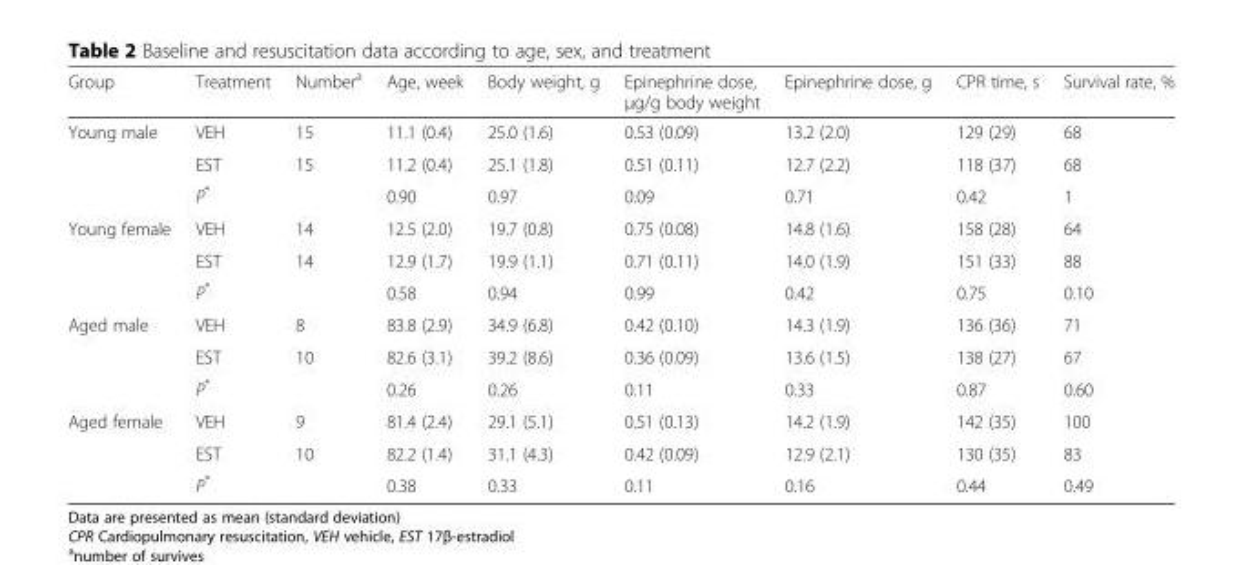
<table><thead><tr><td>Group</td><td>Treatment</td><td>Number<sup>a</sup></td><td>Age, week</td><td>Body weight, g</td><td>Epinephrine dose, μg/g body weight</td><td>Epinephrine dose, g</td><td>CPR time, s</td><td>Survival rate, %</td></tr></thead><tbody><tr><td rowspan="3">Young male</td><td>VEH</td><td>15</td><td>11.1 (0.4)</td><td>25.0 (1.6)</td><td>0.53 (0.09)</td><td>13.2 (2.0)</td><td>129 (29)</td><td>68</td></tr><tr><td>EST</td><td>15</td><td>11.2 (0.4)</td><td>25.1 (1.8)</td><td>0.51 (0.11)</td><td>12.7 (2.2)</td><td>118 (37)</td><td>68</td></tr><tr><td>P*</td><td></td><td>0.90</td><td>0.97</td><td>0.09</td><td>0.71</td><td>0.42</td><td>1</td></tr><tr><td rowspan="3">Young female</td><td>VEH</td><td>14</td><td>12.5 (2.0)</td><td>19.7 (0.8)</td><td>0.75 (0.08)</td><td>14.8 (1.6)</td><td>158 (28)</td><td>64</td></tr><tr><td>EST</td><td>14</td><td>12.9 (1.7)</td><td>19.9 (1.1)</td><td>0.71 (0.11)</td><td>14.0 (1.9)</td><td>151 (33)</td><td>88</td></tr><tr><td>P*</td><td></td><td>0.58</td><td>0.94</td><td>0.99</td><td>0.42</td><td>0.75</td><td>0.10</td></tr><tr><td rowspan="3">Aged male</td><td>VEH</td><td>8</td><td>83.8 (2.9)</td><td>34.9 (6.8)</td><td>0.42 (0.10)</td><td>14.3 (1.9)</td><td>136 (36)</td><td>71</td></tr><tr><td>EST</td><td>10</td><td>82.6 (3.1)</td><td>39.2 (8.6)</td><td>0.36 (0.09)</td><td>13.6 (1.5)</td><td>138 (27)</td><td>67</td></tr><tr><td>P*</td><td></td><td>0.26</td><td>0.26</td><td>0.11</td><td>0.33</td><td>0.87</td><td>0.60</td></tr><tr><td rowspan="3">Aged female</td><td>VEH</td><td>9</td><td>81.4 (2.4)</td><td>29.1 (5.1)</td><td>0.51 (0.13)</td><td>14.2 (1.9)</td><td>142 (35)</td><td>100</td></tr><tr><td>EST</td><td>10</td><td>82.2 (1.4)</td><td>31.1 (4.3)</td><td>0.42 (0.09)</td><td>12.9 (2.1)</td><td>130 (35)</td><td>83</td></tr><tr><td>P*</td><td></td><td>0.38</td><td>0.33</td><td>0.11</td><td>0.16</td><td>0.44</td><td>0.49</td></tr></tbody></table>